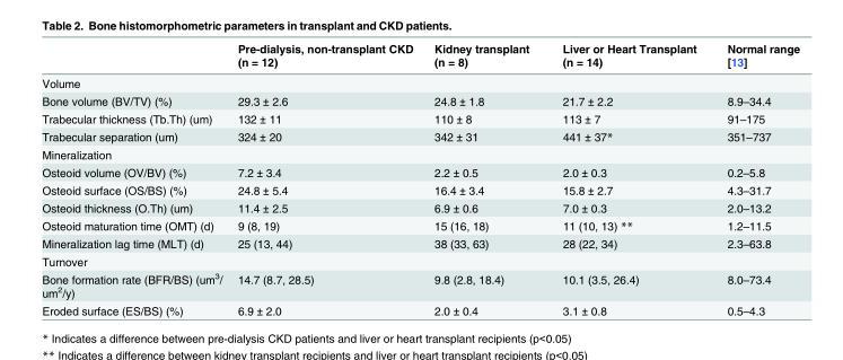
<table><thead><tr><td></td><td>Pre-dialysis, non-transplant CKD (n = 12)</td><td>Kidney transplant (n = 8)</td><td>Liver or Heart Transplant (n = 14)</td><td>Normal range [13]</td></tr></thead><tbody><tr><td colspan="5">Volume</td></tr><tr><td>Bone volume (BV/TV) (%)</td><td>29.3 ± 2.6</td><td>24.8 ± 1.8</td><td>21.7 ± 2.2</td><td>8.9–34.4</td></tr><tr><td>Trabecular thickness (Tb.Th) (um)</td><td>132 ± 11</td><td>110 ± 8</td><td>113 ± 7</td><td>91–175</td></tr><tr><td>Trabecular separation (um)</td><td>324 ± 20</td><td>342 ± 31</td><td>441 ± 37*</td><td>351–737</td></tr><tr><td colspan="5">Mineralization</td></tr><tr><td>Osteoid volume (OV/BV) (%)</td><td>7.2 ± 3.4</td><td>2.2 ± 0.5</td><td>2.0 ± 0.3</td><td>0.2–5.8</td></tr><tr><td>Osteoid surface (OS/BS) (%)</td><td>24.8 ± 5.4</td><td>16.4 ± 3.4</td><td>15.8 ± 2.7</td><td>4.3–31.7</td></tr><tr><td>Osteoid thickness (O.Th) (um)</td><td>11.4 ± 2.5</td><td>6.9 ± 0.6</td><td>7.0 ± 0.3</td><td>2.0–13.2</td></tr><tr><td>Osteoid maturation time (OMT) (d)</td><td>9 (8, 19)</td><td>15 (16, 18)</td><td>11 (10, 13) **</td><td>1.2–11.5</td></tr><tr><td>Mineralization lag time (MLT) (d)</td><td>25 (13, 44)</td><td>38 (33, 63)</td><td>28 (22, 34)</td><td>2.3–63.8</td></tr><tr><td colspan="5">Turnover</td></tr><tr><td>Bone formation rate (BFR/BS) (um<sup>3</sup>/ um<sup>2</sup>/y)</td><td>14.7 (8.7, 28.5)</td><td>9.8 (2.8, 18.4)</td><td>10.1 (3.5, 26.4)</td><td>8.0–73.4</td></tr><tr><td>Eroded surface (ES/BS) (%)</td><td>6.9 ± 2.0</td><td>2.0 ± 0.4</td><td>3.1 ± 0.8</td><td>0.5–4.3</td></tr></tbody></table>